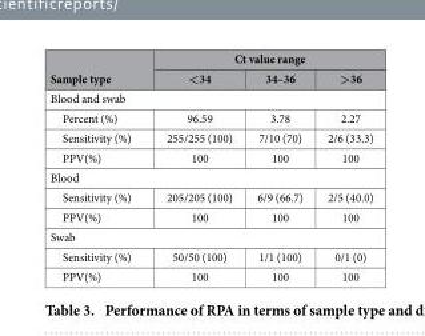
<table><thead><tr><td rowspan="2">Sample type</td><td colspan="3">Ct value range</td></tr><tr><td>&lt;34</td><td>34–36</td><td>&gt;36</td></tr></thead><tbody><tr><td colspan="4">Blood and swab</td></tr><tr><td>Percent (%)</td><td>96.59</td><td>3.78</td><td>2.27</td></tr><tr><td>Sensitivity (%)</td><td>255/255 (100)</td><td>7/10 (70)</td><td>2/6 (33.3)</td></tr><tr><td>PPV(%)</td><td>100</td><td>100</td><td>100</td></tr><tr><td colspan="4">Blood</td></tr><tr><td>Sensitivity (%)</td><td>205/205 (100)</td><td>6/9 (66.7)</td><td>2/5 (40.0)</td></tr><tr><td>PPV(%)</td><td>100</td><td>100</td><td>100</td></tr><tr><td colspan="4">Swab</td></tr><tr><td>Sensitivity (%)</td><td>50/50 (100)</td><td>1/1 (100)</td><td>0/1 (0)</td></tr><tr><td>PPV(%)</td><td>100</td><td>100</td><td>100</td></tr></tbody></table>